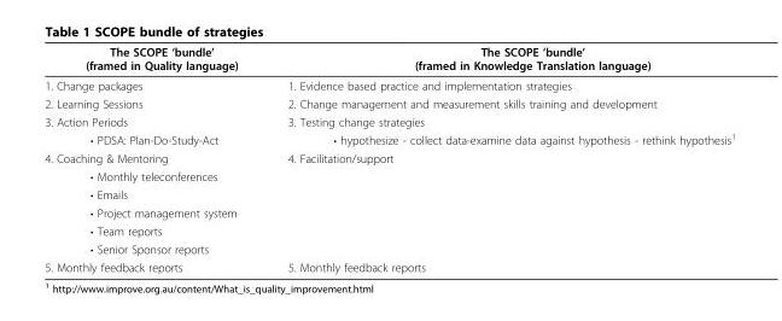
<table><thead><tr><td>The SCOPE ‘bundle’ (framed in Quality language)</td><td>The SCOPE ‘bundle’ (framed in Knowledge Translation language)</td></tr></thead><tbody><tr><td>1. Change packages</td><td>1. Evidence based practice and implementation strategies</td></tr><tr><td>2. Learning Sessions</td><td>2. Change management and measurement skills training and development</td></tr><tr><td>3. Action Periods</td><td>3. Testing change strategies</td></tr><tr><td>• PDSA: Plan-Do-Study-Act</td><td>• hypothesize - collect data-examine data against hypothesis - rethink hypothesis<sup>1</sup></td></tr><tr><td>4. Coaching &amp; Mentoring</td><td>4. Facilitation/support</td></tr><tr><td colspan="2">• Monthly teleconferences</td></tr><tr><td colspan="2">• Emails</td></tr><tr><td colspan="2">• Project management system</td></tr><tr><td colspan="2">• Team reports</td></tr><tr><td colspan="2">• Senior Sponsor reports</td></tr><tr><td>5. Monthly feedback reports</td><td>5. Monthly feedback reports</td></tr></tbody></table>